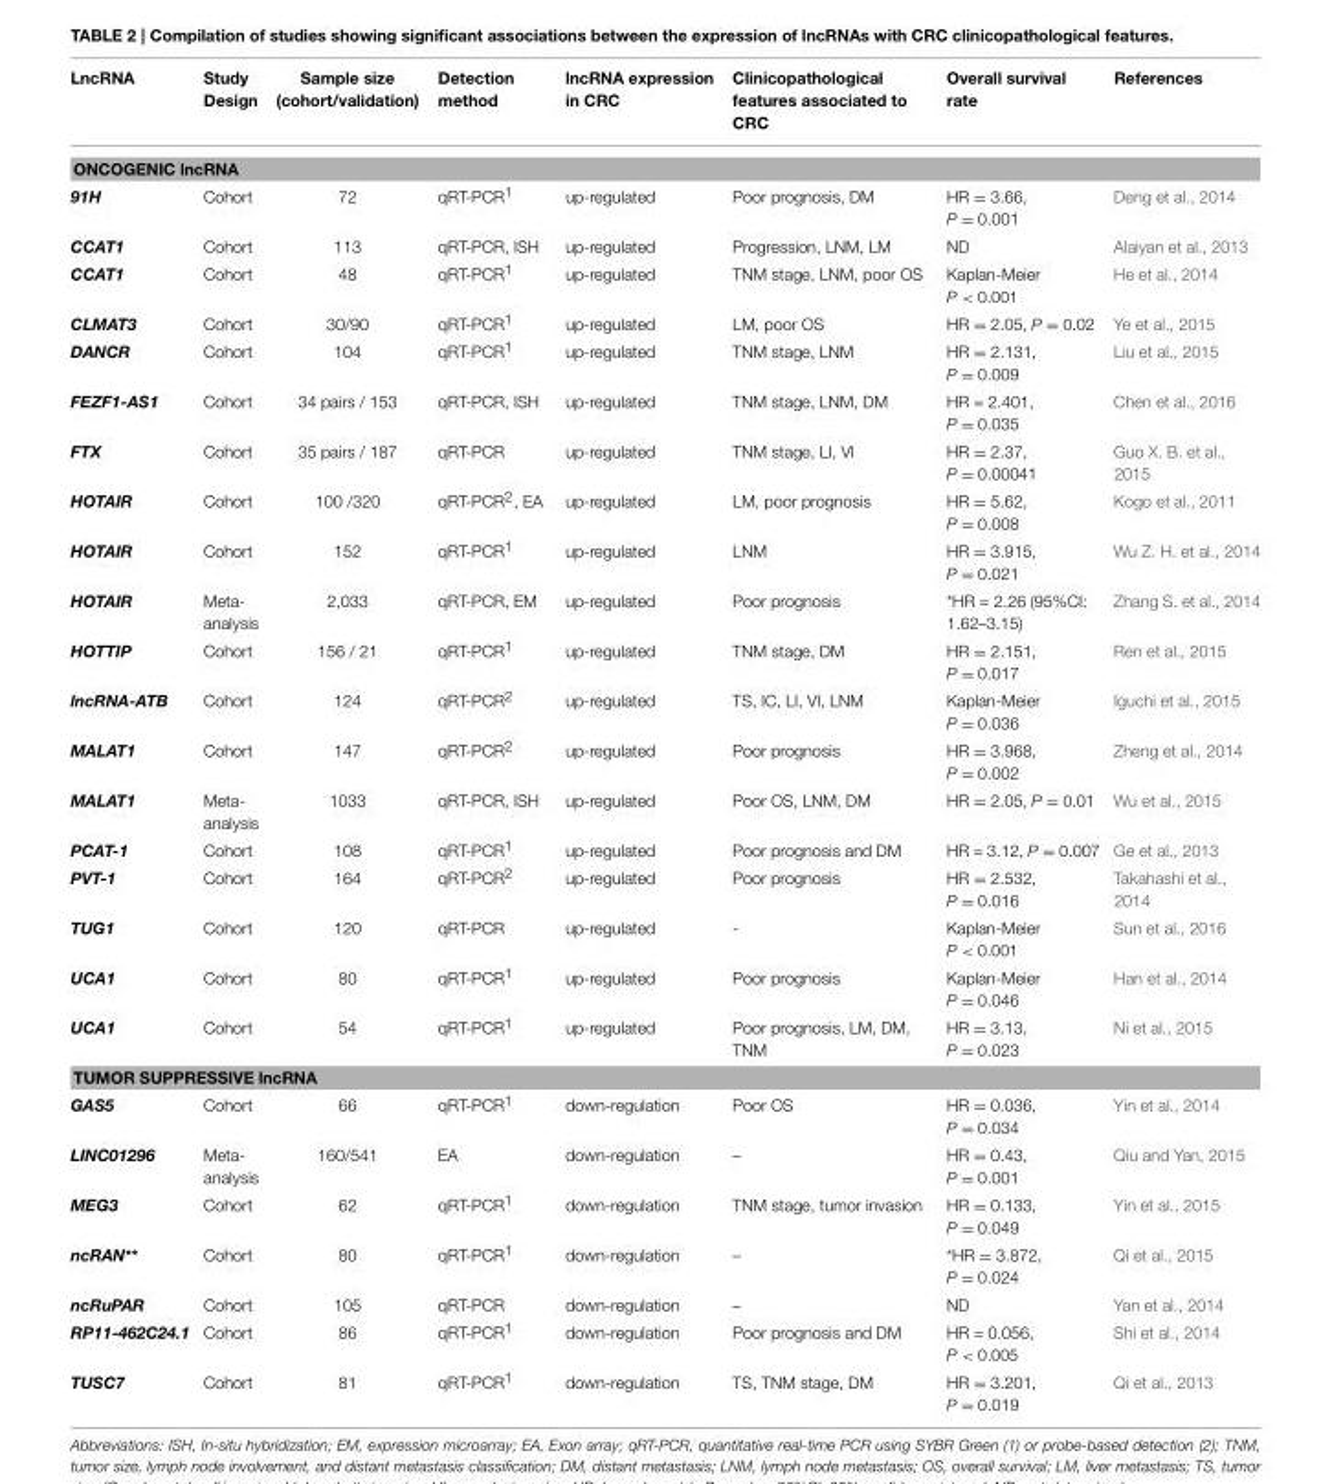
<table><thead><tr><td>LncRNA</td><td>Study Design</td><td>Sample size (cohort/validation)</td><td>Detection method</td><td>lncRNA expression in CRC</td><td>Clinicopathological features associated to CRC</td><td>Overall survival rate</td><td>References</td></tr></thead><tbody><tr><td colspan="8">ONCOGENIC lncRNA</td></tr><tr><td>91H</td><td>Cohort</td><td>72</td><td>qRT-PCR<sup>1</sup></td><td>up-regulated</td><td>Poor prognosis, DM</td><td>HR = 3.66, P = 0.001</td><td>Deng et al., 2014</td></tr><tr><td>CCAT1</td><td>Cohort</td><td>113</td><td>qRT-PCR, ISH</td><td>up-regulated</td><td>Progression, LNM, LM</td><td>ND</td><td>Alaiyan et al., 2013</td></tr><tr><td>CCAT1</td><td>Cohort</td><td>48</td><td>qRT-PCR<sup>1</sup></td><td>up-regulated</td><td>TNM stage, LNM, poor OS</td><td>Kaplan-Meier P &lt; 0.001</td><td>He et al., 2014</td></tr><tr><td>CLMAT3</td><td>Cohort</td><td>30/90</td><td>qRT-PCR<sup>1</sup></td><td>up-regulated</td><td>LM, poor OS</td><td>HR = 2.05, P = 0.02</td><td>Ye et al., 2015</td></tr><tr><td>DANCR</td><td>Cohort</td><td>104</td><td>qRT-PCR<sup>1</sup></td><td>up-regulated</td><td>TNM stage, LNM</td><td>HR = 2.131, P = 0.009</td><td>Liu et al., 2015</td></tr><tr><td>FEZF1-AS1</td><td>Cohort</td><td>34 pairs / 153</td><td>qRT-PCR, ISH</td><td>up-regulated</td><td>TNM stage, LNM, DM</td><td>HR = 2.401, P = 0.035</td><td>Chen et al., 2016</td></tr><tr><td>FTX</td><td>Cohort</td><td>35 pairs / 187</td><td>qRT-PCR</td><td>up-regulated</td><td>TNM stage, LI, VI</td><td>HR = 2.37, P = 0.00041</td><td>Guo X. B. et al., 2015</td></tr><tr><td>HOTAIR</td><td>Cohort</td><td>100 /320</td><td>qRT-PCR<sup>2</sup>, EA</td><td>up-regulated</td><td>LM, poor prognosis</td><td>HR = 5.62, P = 0.008</td><td>Kogo et al., 2011</td></tr><tr><td>HOTAIR</td><td>Cohort</td><td>152</td><td>qRT-PCR<sup>1</sup></td><td>up-regulated</td><td>LNM</td><td>HR = 3.915, P = 0.021</td><td>Wu Z. H. et al., 2014</td></tr><tr><td>HOTAIR</td><td>Meta- analysis</td><td>2,033</td><td>qRT-PCR, EM</td><td>up-regulated</td><td>Poor prognosis</td><td>*HR = 2.26 (95%CI: 1.62–3.15)</td><td>Zhang S. et al., 2014</td></tr><tr><td>HOTTIP</td><td>Cohort</td><td>156 / 21</td><td>qRT-PCR<sup>1</sup></td><td>up-regulated</td><td>TNM stage, DM</td><td>HR = 2.151, P = 0.017</td><td>Ren et al., 2015</td></tr><tr><td>lncRNA-ATB</td><td>Cohort</td><td>124</td><td>qRT-PCR<sup>2</sup></td><td>up-regulated</td><td>TS, IC, LI, VI, LNM</td><td>Kaplan-Meier P = 0.036</td><td>Iguchi et al., 2015</td></tr><tr><td>MALAT1</td><td>Cohort</td><td>147</td><td>qRT-PCR<sup>2</sup></td><td>up-regulated</td><td>Poor prognosis</td><td>HR = 3.968, P = 0.002</td><td>Zheng et al., 2014</td></tr><tr><td>MALAT1</td><td>Meta- analysis</td><td>1033</td><td>qRT-PCR, ISH</td><td>up-regulated</td><td>Poor OS, LNM, DM</td><td>HR = 2.05, P = 0.01</td><td>Wu et al., 2015</td></tr><tr><td>PCAT-1</td><td>Cohort</td><td>108</td><td>qRT-PCR<sup>1</sup></td><td>up-regulated</td><td>Poor prognosis and DM</td><td>HR = 3.12, P = 0.007</td><td>Ge et al., 2013</td></tr><tr><td>PVT-1</td><td>Cohort</td><td>164</td><td>qRT-PCR<sup>2</sup></td><td>up-regulated</td><td>Poor prognosis</td><td>HR = 2.532, P = 0.016</td><td>Takahashi et al., 2014</td></tr><tr><td>TUG1</td><td>Cohort</td><td>120</td><td>qRT-PCR</td><td>up-regulated</td><td>-</td><td>Kaplan-Meier P &lt; 0.001</td><td>Sun et al., 2016</td></tr><tr><td>UCA1</td><td>Cohort</td><td>80</td><td>qRT-PCR<sup>1</sup></td><td>up-regulated</td><td>Poor prognosis</td><td>Kaplan-Meier P = 0.046</td><td>Han et al., 2014</td></tr><tr><td>UCA1</td><td>Cohort</td><td>54</td><td>qRT-PCR<sup>1</sup></td><td>up-regulated</td><td>Poor prognosis, LM, DM, TNM</td><td>HR = 3.13, P = 0.023</td><td>Ni et al., 2015</td></tr><tr><td colspan="8">TUMOR SUPPRESSIVE lncRNA</td></tr><tr><td>GAS5</td><td>Cohort</td><td>66</td><td>qRT-PCR<sup>1</sup></td><td>down-regulation</td><td>Poor OS</td><td>HR = 0.036, P = 0.034</td><td>Yin et al., 2014</td></tr><tr><td>LINC01296</td><td>Meta- analysis</td><td>160/541</td><td>EA</td><td>down-regulation</td><td>–</td><td>HR = 0.43, P = 0.001</td><td>Qiu and Yan, 2015</td></tr><tr><td>MEG3</td><td>Cohort</td><td>62</td><td>qRT-PCR<sup>1</sup></td><td>down-regulation</td><td>TNM stage, tumor invasion</td><td>HR = 0.133, P = 0.049</td><td>Yin et al., 2015</td></tr><tr><td>ncRAN**</td><td>Cohort</td><td>80</td><td>qRT-PCR<sup>1</sup></td><td>down-regulation</td><td>–</td><td>*HR = 3.872, P = 0.024</td><td>Qi et al., 2015</td></tr><tr><td>ncRuPAR</td><td>Cohort</td><td>105</td><td>qRT-PCR</td><td>down-regulation</td><td>–</td><td>ND</td><td>Yan et al., 2014</td></tr><tr><td>RP11-462C24.1</td><td>Cohort</td><td>86</td><td>qRT-PCR<sup>1</sup></td><td>down-regulation</td><td>Poor prognosis and DM</td><td>HR = 0.056, P &lt; 0.005</td><td>Shi et al., 2014</td></tr><tr><td>TUSC7</td><td>Cohort</td><td>81</td><td>qRT-PCR<sup>1</sup></td><td>down-regulation</td><td>TS, TNM stage, DM</td><td>HR = 3.201, P = 0.019</td><td>Qi et al., 2013</td></tr></tbody></table>